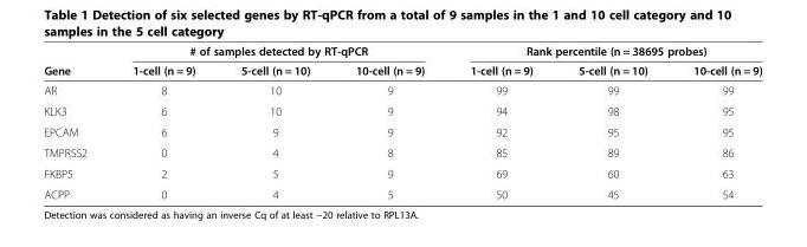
<table><thead><tr><td rowspan="2">Gene</td><td colspan="3"># of samples detected by RT-qPCR</td><td colspan="3">Rank percentile (n = 38695 probes)</td></tr><tr><td>1-cell (n = 9)</td><td>5-cell (n = 10)</td><td>10-cell (n = 9)</td><td>1-cell (n = 9)</td><td>5-cell (n = 10)</td><td>10-cell (n = 9)</td></tr></thead><tbody><tr><td>AR</td><td>8</td><td>10</td><td>9</td><td>99</td><td>99</td><td>99</td></tr><tr><td>KLK3</td><td>6</td><td>10</td><td>9</td><td>94</td><td>98</td><td>95</td></tr><tr><td>EPCAM</td><td>6</td><td>9</td><td>9</td><td>92</td><td>95</td><td>95</td></tr><tr><td>TMPRSS2</td><td>0</td><td>4</td><td>8</td><td>85</td><td>89</td><td>86</td></tr><tr><td>FKBP5</td><td>2</td><td>5</td><td>9</td><td>69</td><td>60</td><td>63</td></tr><tr><td>ACPP</td><td>0</td><td>4</td><td>5</td><td>50</td><td>45</td><td>54</td></tr></tbody></table>